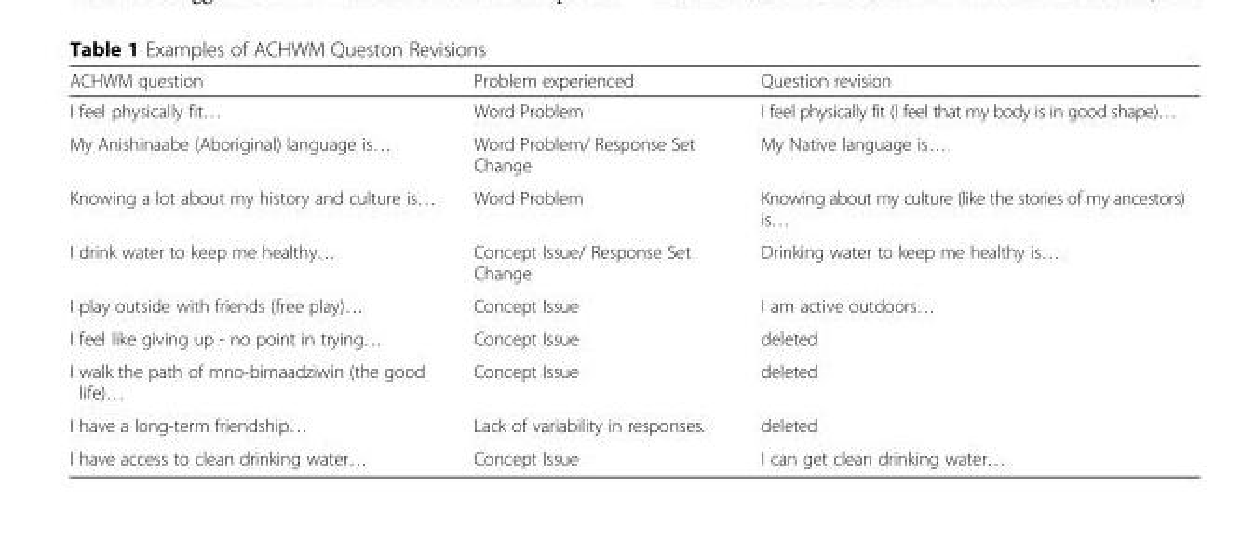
<table><thead><tr><td>ACHWM question</td><td>Problem experienced</td><td>Question revision</td></tr></thead><tbody><tr><td>I feel physically fit…</td><td>Word Problem</td><td>I feel physically fit (I feel that my body is in good shape)…</td></tr><tr><td>My Anishinaabe (Aboriginal) language is…</td><td>Word Problem/ Response Set Change</td><td>My Native language is…</td></tr><tr><td>Knowing a lot about my history and culture is…</td><td>Word Problem</td><td>Knowing about my culture (like the stories of my ancestors) is…</td></tr><tr><td>I drink water to keep me healthy…</td><td>Concept Issue/ Response Set Change</td><td>Drinking water to keep me healthy is…</td></tr><tr><td>I play outside with friends (free play)…</td><td>Concept Issue</td><td>I am active outdoors…</td></tr><tr><td>I feel like giving up - no point in trying…</td><td>Concept Issue</td><td>deleted</td></tr><tr><td>I walk the path of mno-bimaadziwin (the good life)…</td><td>Concept Issue</td><td>deleted</td></tr><tr><td>I have a long-term friendship…</td><td>Lack of variability in responses.</td><td>deleted</td></tr><tr><td>I have access to clean drinking water…</td><td>Concept Issue</td><td>I can get clean drinking water…</td></tr></tbody></table>